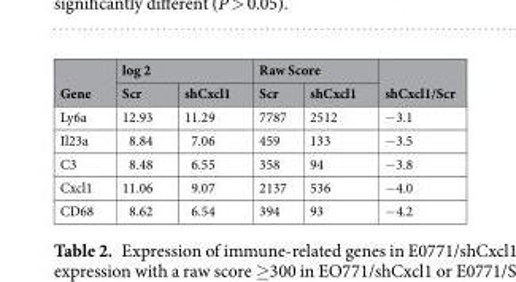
<table><thead><tr><td rowspan="2">Gene</td><td colspan="2">log 2</td><td colspan="2">Raw Score</td><td rowspan="2">shCxcl1/Scr</td></tr><tr><td>Scr</td><td>shCxcl1</td><td>Scr</td><td>shCxcl1</td></tr></thead><tbody><tr><td>Ly6a</td><td>12.93</td><td>11.29</td><td>7787</td><td>2512</td><td>−3.1</td></tr><tr><td>Il23a</td><td>8.84</td><td>7.06</td><td>459</td><td>133</td><td>−3.5</td></tr><tr><td>C3</td><td>8.48</td><td>6.55</td><td>358</td><td>94</td><td>−3.8</td></tr><tr><td>Cxcl1</td><td>11.06</td><td>9.07</td><td>2137</td><td>536</td><td>−4.0</td></tr><tr><td>CD68</td><td>8.62</td><td>6.54</td><td>394</td><td>93</td><td>−4.2</td></tr></tbody></table>